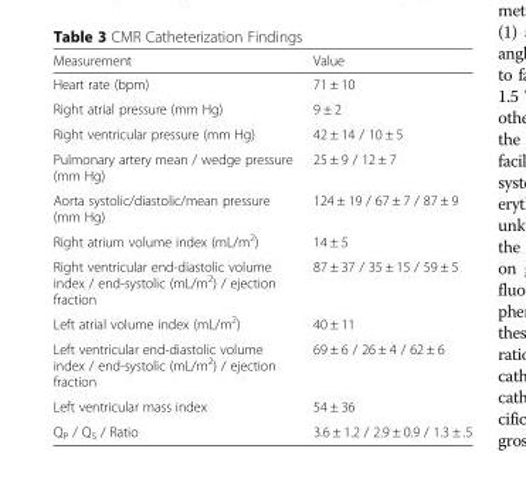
<table><thead><tr><td>Measurement</td><td>Value</td></tr></thead><tbody><tr><td>Heart rate (bpm)</td><td>71 ± 10</td></tr><tr><td>Right atrial pressure (mm Hg)</td><td>9 ± 2</td></tr><tr><td>Right ventricular pressure (mm Hg)</td><td>42 ± 14 / 10 ± 5</td></tr><tr><td>Pulmonary artery mean / wedge pressure (mm Hg)</td><td>25 ± 9 / 12 ± 7</td></tr><tr><td>Aorta systolic/diastolic/mean pressure (mm Hg)</td><td>124 ± 19 / 67 ± 7 / 87 ± 9</td></tr><tr><td>Right atrium volume index (mL/m<sup>2</sup>)</td><td>14 ± 5</td></tr><tr><td>Right ventricular end-diastolic volume index / end-systolic (mL/m<sup>2</sup>) / ejection fraction</td><td>87 ± 37 / 35 ± 15 / 59 ± 5</td></tr><tr><td>Left atrial volume index (mL/m<sup>2</sup>)</td><td>40 ± 11</td></tr><tr><td>Left ventricular end-diastolic volume index / end-systolic (mL/m<sup>2</sup>) / ejection fraction</td><td>69 ± 6 / 26 ± 4 / 62 ± 6</td></tr><tr><td>Left ventricular mass index</td><td>54 ± 36</td></tr><tr><td>Q<sub>P</sub> / Q<sub>S</sub> / Ratio</td><td>3.6 ± 1.2 / 2.9 ± 0.9 / 1.3 ± .5</td></tr></tbody></table>